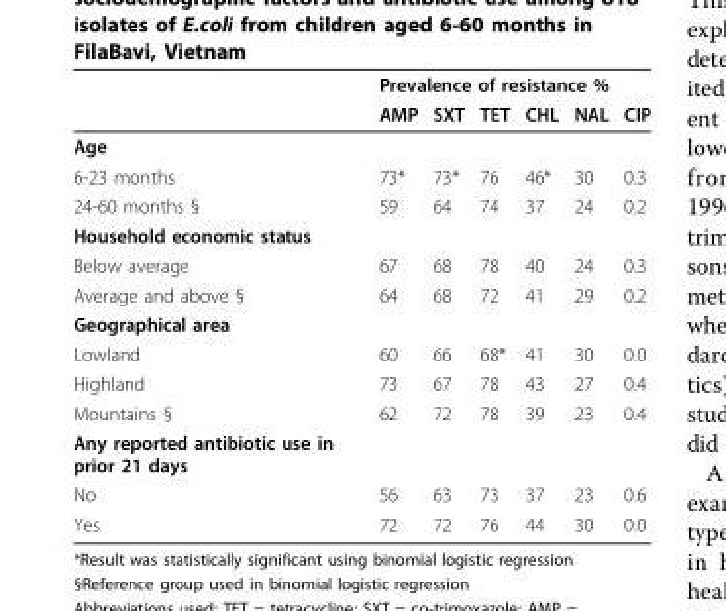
<table><thead><tr><td rowspan="2"></td><td colspan="6">Prevalence of resistance %</td></tr><tr><td>AMP</td><td>SXT</td><td>TET</td><td>CHL</td><td>NAL</td><td>CIP</td></tr></thead><tbody><tr><td colspan="7">Age</td></tr><tr><td>6-23 months</td><td>73*</td><td>73*</td><td>76</td><td>46*</td><td>30</td><td>0.3</td></tr><tr><td>24-60 months §</td><td>59</td><td>64</td><td>74</td><td>37</td><td>24</td><td>0.2</td></tr><tr><td colspan="7">Household economic status</td></tr><tr><td>Below average</td><td>67</td><td>68</td><td>78</td><td>40</td><td>24</td><td>0.3</td></tr><tr><td>Average and above §</td><td>64</td><td>68</td><td>72</td><td>41</td><td>29</td><td>0.2</td></tr><tr><td colspan="7">Geographical area</td></tr><tr><td>Lowland</td><td>60</td><td>66</td><td>68*</td><td>41</td><td>30</td><td>0.0</td></tr><tr><td>Highland</td><td>73</td><td>67</td><td>78</td><td>43</td><td>27</td><td>0.4</td></tr><tr><td>Mountains §</td><td>62</td><td>72</td><td>78</td><td>39</td><td>23</td><td>0.4</td></tr><tr><td colspan="7">Any reported antibiotic use in prior 21 days</td></tr><tr><td>No</td><td>56</td><td>63</td><td>73</td><td>37</td><td>23</td><td>0.6</td></tr><tr><td>Yes</td><td>72</td><td>72</td><td>76</td><td>44</td><td>30</td><td>0.0</td></tr></tbody></table>